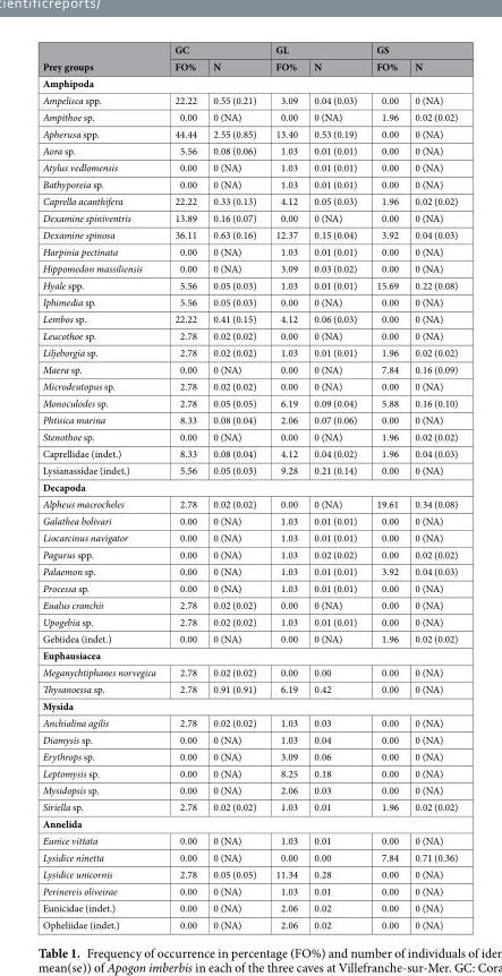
<table><thead><tr><td rowspan="2">Prey groups</td><td colspan="2">GC</td><td colspan="2">GL</td><td colspan="2">GS</td></tr><tr><td>FO%</td><td>N</td><td>FO%</td><td>N</td><td>FO%</td><td>N</td></tr></thead><tbody><tr><td colspan="7">Amphipoda</td></tr><tr><td>Ampelisca spp.</td><td>22.22</td><td>0.55 (0.21)</td><td>3.09</td><td>0.04 (0.03)</td><td>0.00</td><td>0 (NA)</td></tr><tr><td>Ampithoe sp.</td><td>0.00</td><td>0 (NA)</td><td>0.00</td><td>0 (NA)</td><td>1.96</td><td>0.02 (0.02)</td></tr><tr><td>Apherusa spp.</td><td>44.44</td><td>2.55 (0.85)</td><td>13.40</td><td>0.53 (0.19)</td><td>0.00</td><td>0 (NA)</td></tr><tr><td>Aora sp.</td><td>5.56</td><td>0.08 (0.06)</td><td>1.03</td><td>0.01 (0.01)</td><td>0.00</td><td>0 (NA)</td></tr><tr><td>Atylus vedlomensis</td><td>0.00</td><td>0 (NA)</td><td>1.03</td><td>0.01 (0.01)</td><td>0.00</td><td>0 (NA)</td></tr><tr><td>Bathyporeia sp.</td><td>0.00</td><td>0 (NA)</td><td>1.03</td><td>0.01 (0.01)</td><td>0.00</td><td>0 (NA)</td></tr><tr><td>Caprella acanthifera</td><td>22.22</td><td>0.33 (0.13)</td><td>4.12</td><td>0.05 (0.03)</td><td>1.96</td><td>0.02 (0.02)</td></tr><tr><td>Dexamine spiniventris</td><td>13.89</td><td>0.16 (0.07)</td><td>0.00</td><td>0 (NA)</td><td>0.00</td><td>0 (NA)</td></tr><tr><td>Dexamine spinosa</td><td>36.11</td><td>0.63 (0.16)</td><td>12.37</td><td>0.15 (0.04)</td><td>3.92</td><td>0.04 (0.03)</td></tr><tr><td>Harpinia pectinata</td><td>0.00</td><td>0 (NA)</td><td>1.03</td><td>0.01 (0.01)</td><td>0.00</td><td>0 (NA)</td></tr><tr><td>Hippomedon massiliensis</td><td>0.00</td><td>0 (NA)</td><td>3.09</td><td>0.03 (0.02)</td><td>0.00</td><td>0 (NA)</td></tr><tr><td>Hyale spp.</td><td>5.56</td><td>0.05 (0.03)</td><td>1.03</td><td>0.01 (0.01)</td><td>15.69</td><td>0.22 (0.08)</td></tr><tr><td>Iphimedia sp.</td><td>5.56</td><td>0.05 (0.03)</td><td>0.00</td><td>0 (NA)</td><td>0.00</td><td>0 (NA)</td></tr><tr><td>Lembos sp.</td><td>22.22</td><td>0.41 (0.15)</td><td>4.12</td><td>0.06 (0.03)</td><td>0.00</td><td>0 (NA)</td></tr><tr><td>Leucothoe sp.</td><td>2.78</td><td>0.02 (0.02)</td><td>0.00</td><td>0 (NA)</td><td>0.00</td><td>0 (NA)</td></tr><tr><td>Liljeborgia sp.</td><td>2.78</td><td>0.02 (0.02)</td><td>1.03</td><td>0.01 (0.01)</td><td>1.96</td><td>0.02 (0.02)</td></tr><tr><td>Maera sp.</td><td>0.00</td><td>0 (NA)</td><td>0.00</td><td>0 (NA)</td><td>7.84</td><td>0.16 (0.09)</td></tr><tr><td>Microdeutopus sp.</td><td>2.78</td><td>0.02 (0.02)</td><td>0.00</td><td>0 (NA)</td><td>0.00</td><td>0 (NA)</td></tr><tr><td>Monoculodes sp.</td><td>2.78</td><td>0.05 (0.05)</td><td>6.19</td><td>0.09 (0.04)</td><td>5.88</td><td>0.16 (0.10)</td></tr><tr><td>Phtisica marina</td><td>8.33</td><td>0.08 (0.04)</td><td>2.06</td><td>0.07 (0.06)</td><td>0.00</td><td>0 (NA)</td></tr><tr><td>Stenothoe sp.</td><td>0.00</td><td>0 (NA)</td><td>0.00</td><td>0 (NA)</td><td>1.96</td><td>0.02 (0.02)</td></tr><tr><td>Caprellidae (indet.)</td><td>8.33</td><td>0.08 (0.04)</td><td>4.12</td><td>0.04 (0.02)</td><td>1.96</td><td>0.04 (0.03)</td></tr><tr><td>Lysianassidae (indet.)</td><td>5.56</td><td>0.05 (0.03)</td><td>9.28</td><td>0.21 (0.14)</td><td>0.00</td><td>0 (NA)</td></tr><tr><td colspan="7">Decapoda</td></tr><tr><td>Alpheus macrocheles</td><td>2.78</td><td>0.02 (0.02)</td><td>0.00</td><td>0 (NA)</td><td>19.61</td><td>0.34 (0.08)</td></tr><tr><td>Galathea bolivari</td><td>0.00</td><td>0 (NA)</td><td>1.03</td><td>0.01 (0.01)</td><td>0.00</td><td>0 (NA)</td></tr><tr><td>Liocarcinus navigator</td><td>0.00</td><td>0 (NA)</td><td>1.03</td><td>0.01 (0.01)</td><td>0.00</td><td>0 (NA)</td></tr><tr><td>Pagurus spp.</td><td>0.00</td><td>0 (NA)</td><td>1.03</td><td>0.02 (0.02)</td><td>0.00</td><td>0.02 (0.02)</td></tr><tr><td>Palaemon sp.</td><td>0.00</td><td>0 (NA)</td><td>1.03</td><td>0.01 (0.01)</td><td>3.92</td><td>0.04 (0.03)</td></tr><tr><td>Processa sp.</td><td>0.00</td><td>0 (NA)</td><td>1.03</td><td>0.01 (0.01)</td><td>0.00</td><td>0 (NA)</td></tr><tr><td>Eualus cranchii</td><td>2.78</td><td>0.02 (0.02)</td><td>0.00</td><td>0 (NA)</td><td>0.00</td><td>0 (NA)</td></tr><tr><td>Upogebia sp.</td><td>2.78</td><td>0.02 (0.02)</td><td>1.03</td><td>0.01 (0.01)</td><td>0.00</td><td>0 (NA)</td></tr><tr><td>Gebiidea (indet.)</td><td>0.00</td><td>0 (NA)</td><td>0.00</td><td>0 (NA)</td><td>1.96</td><td>0.02 (0.02)</td></tr><tr><td colspan="7">Euphausiacea</td></tr><tr><td>Meganychtiphanes norvegica</td><td>2.78</td><td>0.02 (0.02)</td><td>0.00</td><td>0.00</td><td>0.00</td><td>0 (NA)</td></tr><tr><td>Thysanoessa sp.</td><td>2.78</td><td>0.91 (0.91)</td><td>6.19</td><td>0.42</td><td>0.00</td><td>0 (NA)</td></tr><tr><td colspan="7">Mysida</td></tr><tr><td>Anchialina agilis</td><td>2.78</td><td>0.02 (0.02)</td><td>1.03</td><td>0.03</td><td>0.00</td><td>0 (NA)</td></tr><tr><td>Diamysis sp.</td><td>0.00</td><td>0 (NA)</td><td>1.03</td><td>0.04</td><td>0.00</td><td>0 (NA)</td></tr><tr><td>Erythrops sp.</td><td>0.00</td><td>0 (NA)</td><td>3.09</td><td>0.06</td><td>0.00</td><td>0 (NA)</td></tr><tr><td>Leptomysis sp.</td><td>0.00</td><td>0 (NA)</td><td>8.25</td><td>0.18</td><td>0.00</td><td>0 (NA)</td></tr><tr><td>Mysidopsis sp.</td><td>0.00</td><td>0 (NA)</td><td>2.06</td><td>0.03</td><td>0.00</td><td>0 (NA)</td></tr><tr><td>Siriella sp.</td><td>2.78</td><td>0.02 (0.02)</td><td>1.03</td><td>0.01</td><td>1.96</td><td>0.02 (0.02)</td></tr><tr><td colspan="7">Annelida</td></tr><tr><td>Eunice vittata</td><td>0.00</td><td>0 (NA)</td><td>1.03</td><td>0.01</td><td>0.00</td><td>0 (NA)</td></tr><tr><td>Lysidice ninetta</td><td>0.00</td><td>0 (NA)</td><td>0.00</td><td>0.00</td><td>7.84</td><td>0.71 (0.36)</td></tr><tr><td>Lysidice unicornis</td><td>2.78</td><td>0.05 (0.05)</td><td>11.34</td><td>0.28</td><td>0.00</td><td>0 (NA)</td></tr><tr><td>Perinereis oliveirae</td><td>0.00</td><td>0 (NA)</td><td>1.03</td><td>0.01</td><td>0.00</td><td>0 (NA)</td></tr><tr><td>Eunicidae (indet.)</td><td>0.00</td><td>0 (NA)</td><td>2.06</td><td>0.02</td><td>0.00</td><td>0 (NA)</td></tr><tr><td>Opheliidae (indet.)</td><td>0.00</td><td>0 (NA)</td><td>2.06</td><td>0.02</td><td>0.00</td><td>0 (NA)</td></tr></tbody></table>